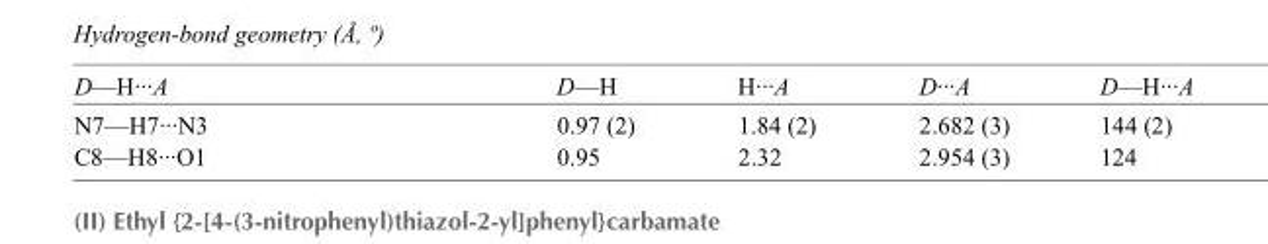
<table><tbody><tr><td>D—H···A</td><td>D—H</td><td>H···A</td><td>D···A</td><td>D—H···A</td></tr><tr><td>N7—H7···N3</td><td>0.97 (2)</td><td>1.84 (2)</td><td>2.682 (3)</td><td>144 (2)</td></tr><tr><td>C8—H8···O1</td><td>0.95</td><td>2.32</td><td>2.954 (3)</td><td>124</td></tr></tbody></table>